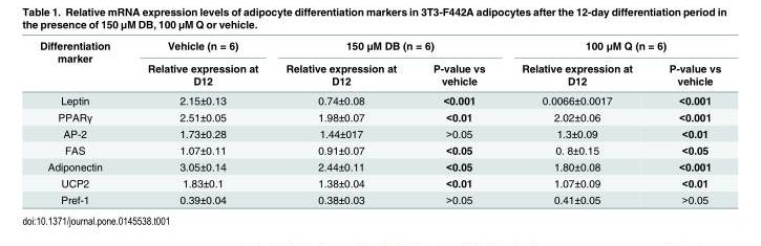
<table><thead><tr><td rowspan="2">Differentiation marker</td><td rowspan="2">Vehicle (n = 6) Relative expression at D12</td><td colspan="2">150 μM DB (n = 6)</td><td colspan="2">100 μM Q (n = 6)</td></tr><tr><td>Relative expression at D12</td><td>P-value vs vehicle</td><td>Relative expression at D12</td><td>P-value vs vehicle</td></tr></thead><tbody><tr><td>Leptin</td><td>2.15±0.13</td><td>0.74±0.08</td><td>&lt;0.001</td><td>0.0066±0.0017</td><td>&lt;0.001</td></tr><tr><td>PPARγ</td><td>2.51±0.05</td><td>1.98±0.07</td><td>&lt;0.01</td><td>2.02±0.06</td><td>&lt;0.001</td></tr><tr><td>AP-2</td><td>1.73±0.28</td><td>1.44±017</td><td>&gt;0.05</td><td>1.3±0.09</td><td>&lt;0.01</td></tr><tr><td>FAS</td><td>1.07±0.11</td><td>0.91±0.07</td><td>&lt;0.05</td><td>0. 8±0.15</td><td>&lt;0.05</td></tr><tr><td>Adiponectin</td><td>3.05±0.14</td><td>2.44±0.11</td><td>&lt;0.05</td><td>1.80±0.08</td><td>&lt;0.001</td></tr><tr><td>UCP2</td><td>1.83±0.1</td><td>1.38±0.04</td><td>&lt;0.01</td><td>1.07±0.09</td><td>&lt;0.01</td></tr><tr><td>Pref-1</td><td>0.39±0.04</td><td>0.38±0.03</td><td>&gt;0.05</td><td>0.41±0.05</td><td>&gt;0.05</td></tr></tbody></table>